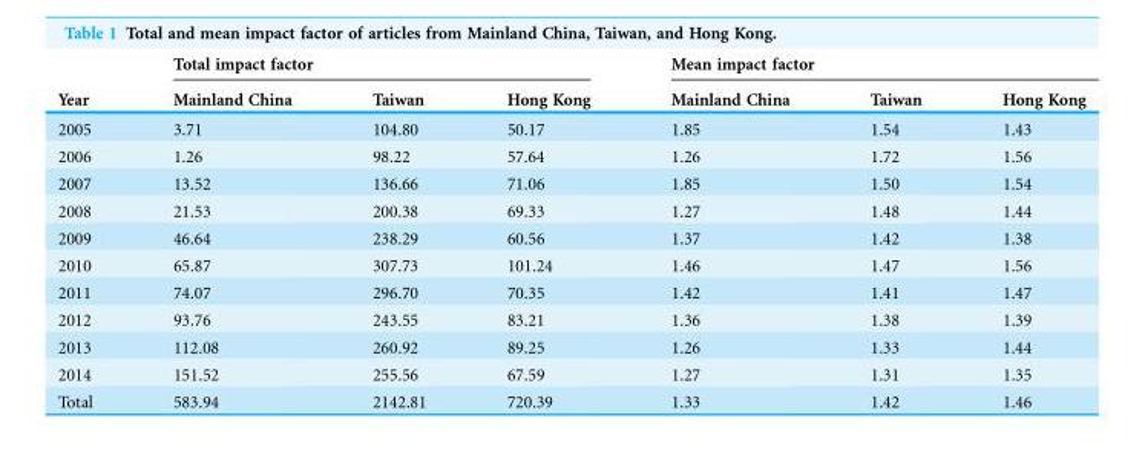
<table><thead><tr><td rowspan="2">Year</td><td colspan="3">Total impact factor</td><td colspan="3">Mean impact factor</td></tr><tr><td>Mainland China</td><td>Taiwan</td><td>Hong Kong</td><td>Mainland China</td><td>Taiwan</td><td>Hong Kong</td></tr></thead><tbody><tr><td>2005</td><td>3.71</td><td>104.80</td><td>50.17</td><td>1.85</td><td>1.54</td><td>1.43</td></tr><tr><td>2006</td><td>1.26</td><td>98.22</td><td>57.64</td><td>1.26</td><td>1.72</td><td>1.56</td></tr><tr><td>2007</td><td>13.52</td><td>136.66</td><td>71.06</td><td>1.85</td><td>1.50</td><td>1.54</td></tr><tr><td>2008</td><td>21.53</td><td>200.38</td><td>69.33</td><td>1.27</td><td>1.48</td><td>1.44</td></tr><tr><td>2009</td><td>46.64</td><td>238.29</td><td>60.56</td><td>1.37</td><td>1.42</td><td>1.38</td></tr><tr><td>2010</td><td>65.87</td><td>307.73</td><td>101.24</td><td>1.46</td><td>1.47</td><td>1.56</td></tr><tr><td>2011</td><td>74.07</td><td>296.70</td><td>70.35</td><td>1.42</td><td>1.41</td><td>1.47</td></tr><tr><td>2012</td><td>93.76</td><td>243.55</td><td>83.21</td><td>1.36</td><td>1.38</td><td>1.39</td></tr><tr><td>2013</td><td>112.08</td><td>260.92</td><td>89.25</td><td>1.26</td><td>1.33</td><td>1.44</td></tr><tr><td>2014</td><td>151.52</td><td>255.56</td><td>67.59</td><td>1.27</td><td>1.31</td><td>1.35</td></tr><tr><td>Total</td><td>583.94</td><td>2142.81</td><td>720.39</td><td>1.33</td><td>1.42</td><td>1.46</td></tr></tbody></table>